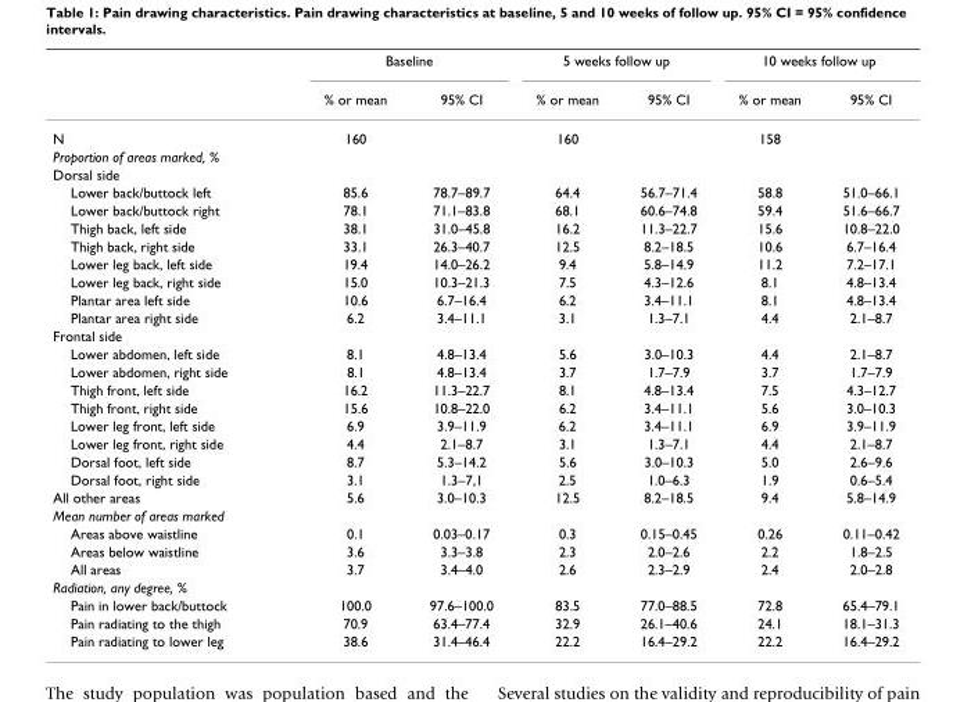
<table><thead><tr><td rowspan="2"></td><td colspan="2">Baseline</td><td colspan="2">5 weeks follow up</td><td colspan="2">10 weeks follow up</td></tr><tr><td>% or mean</td><td>95% CI</td><td>% or mean</td><td>95% CI</td><td>% or mean</td><td>95% CI</td></tr></thead><tbody><tr><td>N</td><td>160</td><td></td><td>160</td><td></td><td>158</td><td></td></tr><tr><td colspan="7">Proportion of areas marked, %</td></tr><tr><td colspan="7">Dorsal side</td></tr><tr><td>Lower back/buttock left</td><td>85.6</td><td>78.7–89.7</td><td>64.4</td><td>56.7–71.4</td><td>58.8</td><td>51.0–66.1</td></tr><tr><td>Lower back/buttock right</td><td>78.1</td><td>71.1–83.8</td><td>68.1</td><td>60.6–74.8</td><td>59.4</td><td>51.6–66.7</td></tr><tr><td>Thigh back, left side</td><td>38.1</td><td>31.0–45.8</td><td>16.2</td><td>11.3–22.7</td><td>15.6</td><td>10.8–22.0</td></tr><tr><td>Thigh back, right side</td><td>33.1</td><td>26.3–40.7</td><td>12.5</td><td>8.2–18.5</td><td>10.6</td><td>6.7–16.4</td></tr><tr><td>Lower leg back, left side</td><td>19.4</td><td>14.0–26.2</td><td>9.4</td><td>5.8–14.9</td><td>11.2</td><td>7.2–17.1</td></tr><tr><td>Lower leg back, right side</td><td>15.0</td><td>10.3–21.3</td><td>7.5</td><td>4.3–12.6</td><td>8.1</td><td>4.8–13.4</td></tr><tr><td>Plantar area left side</td><td>10.6</td><td>6.7–16.4</td><td>6.2</td><td>3.4–11.1</td><td>8.1</td><td>4.8–13.4</td></tr><tr><td>Plantar area right side</td><td>6.2</td><td>3.4–11.1</td><td>3.1</td><td>1.3–7.1</td><td>4.4</td><td>2.1–8.7</td></tr><tr><td colspan="7">Frontal side</td></tr><tr><td>Lower abdomen, left side</td><td>8.1</td><td>4.8–13.4</td><td>5.6</td><td>3.0–10.3</td><td>4.4</td><td>2.1–8.7</td></tr><tr><td>Lower abdomen, right side</td><td>8.1</td><td>4.8–13.4</td><td>3.7</td><td>1.7–7.9</td><td>3.7</td><td>1.7–7.9</td></tr><tr><td>Thigh front, left side</td><td>16.2</td><td>11.3–22.7</td><td>8.1</td><td>4.8–13.4</td><td>7.5</td><td>4.3–12.7</td></tr><tr><td>Thigh front, right side</td><td>15.6</td><td>10.8–22.0</td><td>6.2</td><td>3.4–11.1</td><td>5.6</td><td>3.0–10.3</td></tr><tr><td>Lower leg front, left side</td><td>6.9</td><td>3.9–11.9</td><td>6.2</td><td>3.4–11.1</td><td>6.9</td><td>3.9–11.9</td></tr><tr><td>Lower leg front, right side</td><td>4.4</td><td>2.1–8.7</td><td>3.1</td><td>1.3–7.1</td><td>4.4</td><td>2.1–8.7</td></tr><tr><td>Dorsal foot, left side</td><td>8.7</td><td>5.3–14.2</td><td>5.6</td><td>3.0–10.3</td><td>5.0</td><td>2.6–9.6</td></tr><tr><td>Dorsal foot, right side</td><td>3.1</td><td>1.3–7,1</td><td>2.5</td><td>1.0–6.3</td><td>1.9</td><td>0.6–5.4</td></tr><tr><td>All other areas</td><td>5.6</td><td>3.0–10.3</td><td>12.5</td><td>8.2–18.5</td><td>9.4</td><td>5.8–14.9</td></tr><tr><td colspan="7">Mean number of areas marked</td></tr><tr><td>Areas above waistline</td><td>0.1</td><td>0.03–0.17</td><td>0.3</td><td>0.15–0.45</td><td>0.26</td><td>0.11–0.42</td></tr><tr><td>Areas below waistline</td><td>3.6</td><td>3.3–3.8</td><td>2.3</td><td>2.0–2.6</td><td>2.2</td><td>1.8–2.5</td></tr><tr><td>All areas</td><td>3.7</td><td>3.4–4.0</td><td>2.6</td><td>2.3–2.9</td><td>2.4</td><td>2.0–2.8</td></tr><tr><td colspan="7">Radiation, any degree, %</td></tr><tr><td>Pain in lower back/buttock</td><td>100.0</td><td>97.6–100.0</td><td>83.5</td><td>77.0–88.5</td><td>72.8</td><td>65.4–79.1</td></tr><tr><td>Pain radiating to the thigh</td><td>70.9</td><td>63.4–77.4</td><td>32.9</td><td>26.1–40.6</td><td>24.1</td><td>18.1–31.3</td></tr><tr><td>Pain radiating to lower leg</td><td>38.6</td><td>31.4–46.4</td><td>22.2</td><td>16.4–29.2</td><td>22.2</td><td>16.4–29.2</td></tr></tbody></table>